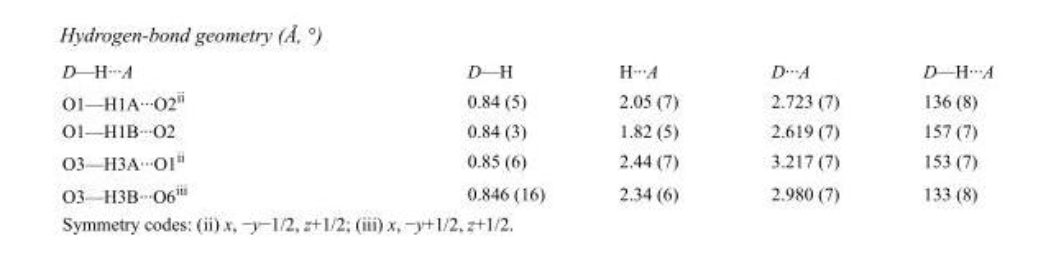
<table><tbody><tr><td>D—H···A</td><td>D—H</td><td>H···A</td><td>D···A</td><td>D—H···A</td></tr><tr><td>O1—H1A···O2<sup>ii</sup></td><td>0.84 (5)</td><td>2.05 (7)</td><td>2.723 (7)</td><td>136 (8)</td></tr><tr><td>O1—H1B···O2</td><td>0.84 (3)</td><td>1.82 (5)</td><td>2.619 (7)</td><td>157 (7)</td></tr><tr><td>O3—H3A···O1<sup>ii</sup></td><td>0.85 (6)</td><td>2.44 (7)</td><td>3.217 (7)</td><td>153 (7)</td></tr><tr><td>O3—H3B···O6<sup>iii</sup></td><td>0.846 (16)</td><td>2.34 (6)</td><td>2.980 (7)</td><td>133 (8)</td></tr></tbody></table>